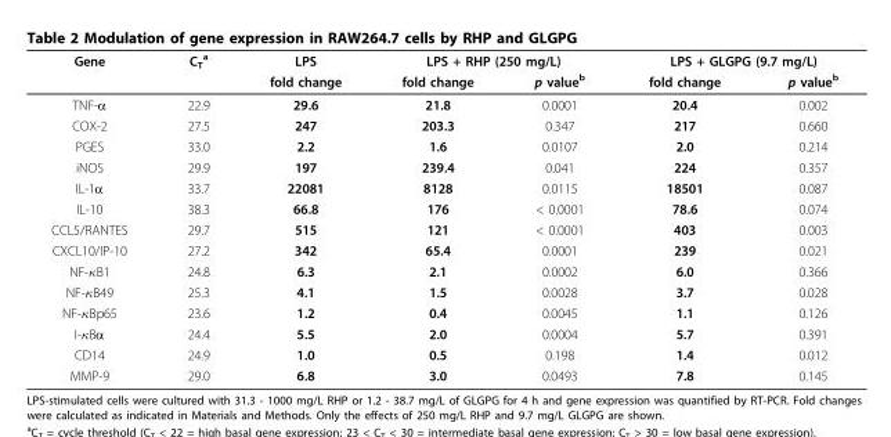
<table><thead><tr><td rowspan="2">Gene</td><td rowspan="2">C<sub>T</sub> <sup>a</sup></td><td rowspan="2">LPS fold change</td><td colspan="2">LPS + RHP (250 mg/L)</td><td colspan="2">LPS + GLGPG (9.7 mg/L)</td></tr><tr><td>fold change</td><td>p value<sup>b</sup></td><td>fold change</td><td>p value<sup>b</sup></td></tr></thead><tbody><tr><td>TNF-α</td><td>22.9</td><td>29.6</td><td>21.8</td><td>0.0001</td><td>20.4</td><td>0.002</td></tr><tr><td>COX-2</td><td>27.5</td><td>247</td><td>203.3</td><td>0.347</td><td>217</td><td>0.660</td></tr><tr><td>PGES</td><td>33.0</td><td>2.2</td><td>1.6</td><td>0.0107</td><td>2.0</td><td>0.214</td></tr><tr><td>iNOS</td><td>29.9</td><td>197</td><td>239.4</td><td>0.041</td><td>224</td><td>0.357</td></tr><tr><td>IL-1α</td><td>33.7</td><td>22081</td><td>8128</td><td>0.0115</td><td>18501</td><td>0.087</td></tr><tr><td>IL-10</td><td>38.3</td><td>66.8</td><td>176</td><td>&lt; 0.0001</td><td>78.6</td><td>0.074</td></tr><tr><td>CCL5/RANTES</td><td>29.7</td><td>515</td><td>121</td><td>&lt; 0.0001</td><td>403</td><td>0.003</td></tr><tr><td>CXCL10/IP-10</td><td>27.2</td><td>342</td><td>65.4</td><td>0.0001</td><td>239</td><td>0.021</td></tr><tr><td>NF-κB1</td><td>24.8</td><td>6.3</td><td>2.1</td><td>0.0002</td><td>6.0</td><td>0.366</td></tr><tr><td>NF-κB49</td><td>25.3</td><td>4.1</td><td>1.5</td><td>0.0028</td><td>3.7</td><td>0.028</td></tr><tr><td>NF-κBp65</td><td>23.6</td><td>1.2</td><td>0.4</td><td>0.0045</td><td>1.1</td><td>0.126</td></tr><tr><td>I-κBα</td><td>24.4</td><td>5.5</td><td>2.0</td><td>0.0004</td><td>5.7</td><td>0.391</td></tr><tr><td>CD14</td><td>24.9</td><td>1.0</td><td>0.5</td><td>0.198</td><td>1.4</td><td>0.012</td></tr><tr><td>MMP-9</td><td>29.0</td><td>6.8</td><td>3.0</td><td>0.0493</td><td>7.8</td><td>0.145</td></tr></tbody></table>